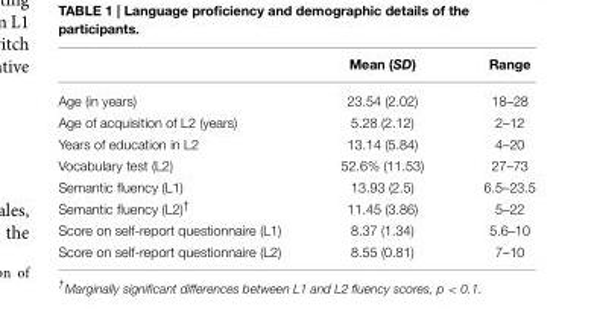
<table><thead><tr><td></td><td>Mean (SD)</td><td>Range</td></tr></thead><tbody><tr><td>Age (in years)</td><td>23.54 (2.02)</td><td>18–28</td></tr><tr><td>Age of acquisition of L2 (years)</td><td>5.28 (2.12)</td><td>2–12</td></tr><tr><td>Years of education in L2</td><td>13.14 (5.84)</td><td>4–20</td></tr><tr><td>Vocabulary test (L2)</td><td>52.6% (11.53)</td><td>27–73</td></tr><tr><td>Semantic fluency (L1)</td><td>13.93 (2.5)</td><td>6.5–23.5</td></tr><tr><td>Semantic fluency (L2)<sup>†</sup></td><td>11.45 (3.86)</td><td>5–22</td></tr><tr><td>Score on self-report questionnaire (L1)</td><td>8.37 (1.34)</td><td>5.6–10</td></tr><tr><td>Score on self-report questionnaire (L2)</td><td>8.55 (0.81)</td><td>7–10</td></tr></tbody></table>